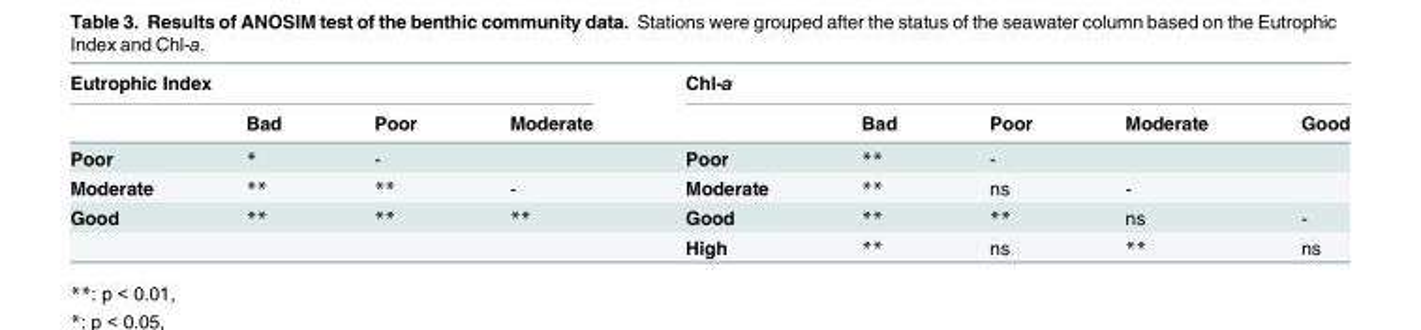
<table><thead><tr><td colspan="4">Eutrophic Index</td><td colspan="5">Chl-a</td></tr><tr><td></td><td>Bad</td><td>Poor</td><td>Moderate</td><td></td><td>Bad</td><td>Poor</td><td>Moderate</td><td>Good</td></tr></thead><tbody><tr><td>Poor</td><td>*</td><td>-</td><td></td><td>Poor</td><td>**</td><td>-</td><td></td><td></td></tr><tr><td>Moderate</td><td>**</td><td>**</td><td>-</td><td>Moderate</td><td>**</td><td>ns</td><td>-</td><td></td></tr><tr><td rowspan="2">Good</td><td>**</td><td>**</td><td>**</td><td>Good</td><td>**</td><td>**</td><td>ns</td><td>-</td></tr><tr><td></td><td></td><td></td><td>High</td><td>**</td><td>ns</td><td>**</td><td>ns</td></tr></tbody></table>